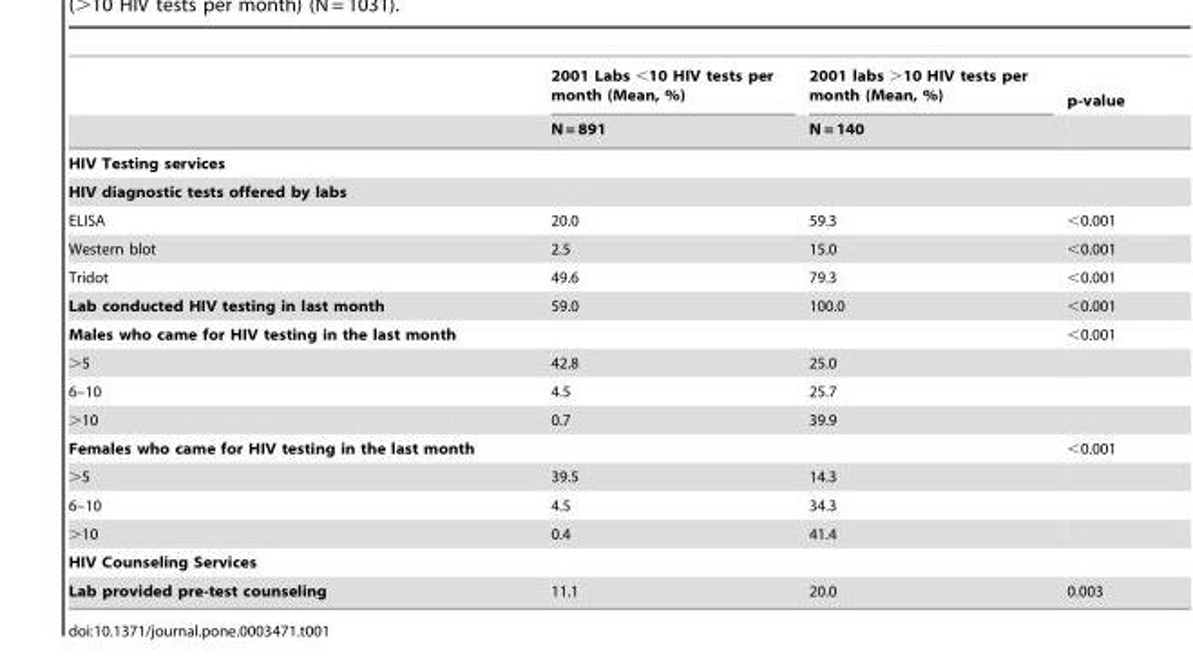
<table><thead><tr><td rowspan="2"></td><td rowspan="2">2001 Labs &lt;10 HIV tests per month (Mean, %) N = 891</td><td rowspan="2">2001 labs &gt;10 HIV tests per month (Mean, %) N = 140</td><td rowspan="2">p-value</td></tr><tr></tr></thead><tbody><tr><td colspan="4">HIV Testing services</td></tr><tr><td colspan="4">HIV diagnostic tests offered by labs</td></tr><tr><td>ELISA</td><td>20.0</td><td>59.3</td><td>&lt;0.001</td></tr><tr><td>Western blot</td><td>2.5</td><td>15.0</td><td>&lt;0.001</td></tr><tr><td>Tridot</td><td>49.6</td><td>79.3</td><td>&lt;0.001</td></tr><tr><td>Lab conducted HIV testing in last month</td><td>59.0</td><td>100.0</td><td>&lt;0.001</td></tr><tr><td>Males who came for HIV testing in the last month</td><td></td><td></td><td>&lt;0.001</td></tr><tr><td>&gt;5</td><td>42.8</td><td>25.0</td><td></td></tr><tr><td>6–10</td><td>4.5</td><td>25.7</td><td></td></tr><tr><td>&gt;10</td><td>0.7</td><td>39.9</td><td></td></tr><tr><td>Females who came for HIV testing in the last month</td><td></td><td></td><td>&lt;0.001</td></tr><tr><td>&gt;5</td><td>39.5</td><td>14.3</td><td></td></tr><tr><td>6–10</td><td>4.5</td><td>34.3</td><td></td></tr><tr><td>&gt;10</td><td>0.4</td><td>41.4</td><td></td></tr><tr><td colspan="4">HIV Counseling Services</td></tr><tr><td>Lab provided pre-test counseling</td><td>11.1</td><td>20.0</td><td>0.003</td></tr></tbody></table>